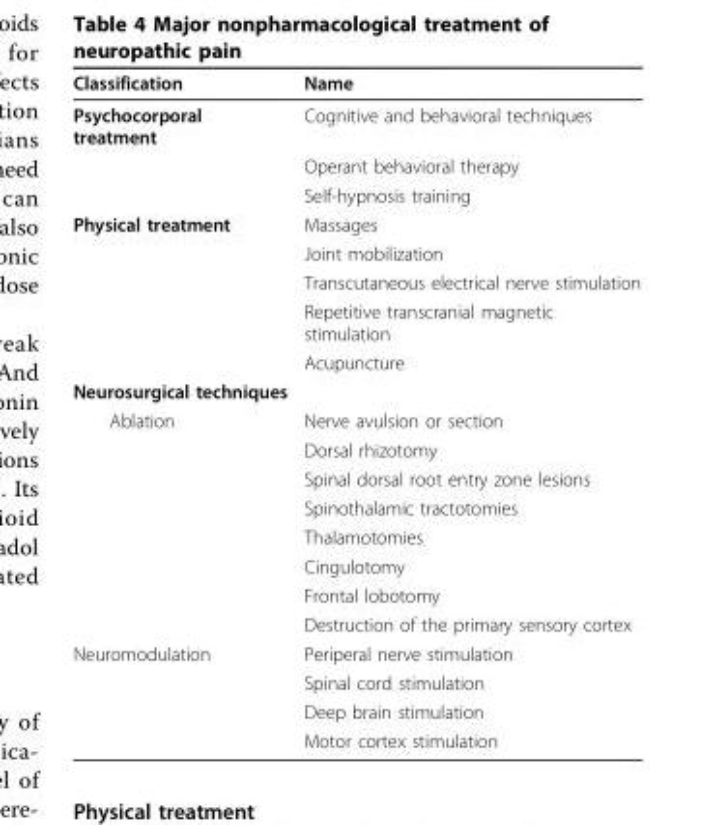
<table><thead><tr><td>Classification</td><td>Name</td></tr></thead><tbody><tr><td rowspan="3">Psychocorporal treatment</td><td>Cognitive and behavioral techniques</td></tr><tr><td>Operant behavioral therapy</td></tr><tr><td>Self-hypnosis training</td></tr><tr><td rowspan="5">Physical treatment</td><td>Massages</td></tr><tr><td>Joint mobilization</td></tr><tr><td>Transcutaneous electrical nerve stimulation</td></tr><tr><td>Repetitive transcranial magnetic stimulation</td></tr><tr><td>Acupuncture</td></tr><tr><td colspan="2">Neurosurgical techniques</td></tr><tr><td rowspan="8">Ablation</td><td>Nerve avulsion or section</td></tr><tr><td>Dorsal rhizotomy</td></tr><tr><td>Spinal dorsal root entry zone lesions</td></tr><tr><td>Spinothalamic tractotomies</td></tr><tr><td>Thalamotomies</td></tr><tr><td>Cingulotomy</td></tr><tr><td>Frontal lobotomy</td></tr><tr><td>Destruction of the primary sensory cortex</td></tr><tr><td rowspan="4">Neuromodulation</td><td>Periperal nerve stimulation</td></tr><tr><td>Spinal cord stimulation</td></tr><tr><td>Deep brain stimulation</td></tr><tr><td>Motor cortex stimulation</td></tr></tbody></table>